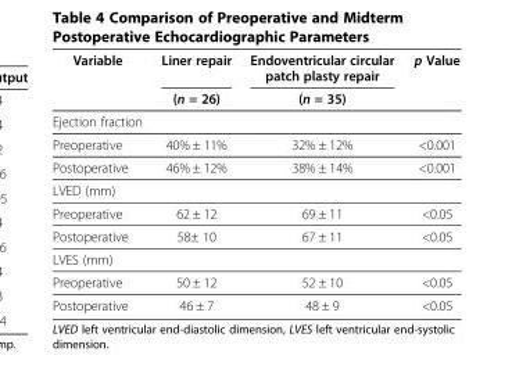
<table><thead><tr><td rowspan="2">Variable</td><td rowspan="2">Liner repair (n = 26)</td><td rowspan="2">Endoventricular circular patch plasty repair (n = 35)</td><td rowspan="2">p Value</td></tr><tr></tr></thead><tbody><tr><td colspan="4">Ejection fraction</td></tr><tr><td>Preoperative</td><td>40% ± 11%</td><td>32% ± 12%</td><td>&lt;0.001</td></tr><tr><td>Postoperative</td><td>46% ± 12%</td><td>38% ± 14%</td><td>&lt;0.001</td></tr><tr><td colspan="4">LVED (mm)</td></tr><tr><td>Preoperative</td><td>62 ± 12</td><td>69 ± 11</td><td>&lt;0.05</td></tr><tr><td>Postoperative</td><td>58± 10</td><td>67 ± 11</td><td>&lt;0.05</td></tr><tr><td colspan="4">LVES (mm)</td></tr><tr><td>Preoperative</td><td>50 ± 12</td><td>52 ± 10</td><td>&lt;0.05</td></tr><tr><td>Postoperative</td><td>46 ± 7</td><td>48 ± 9</td><td>&lt;0.05</td></tr></tbody></table>